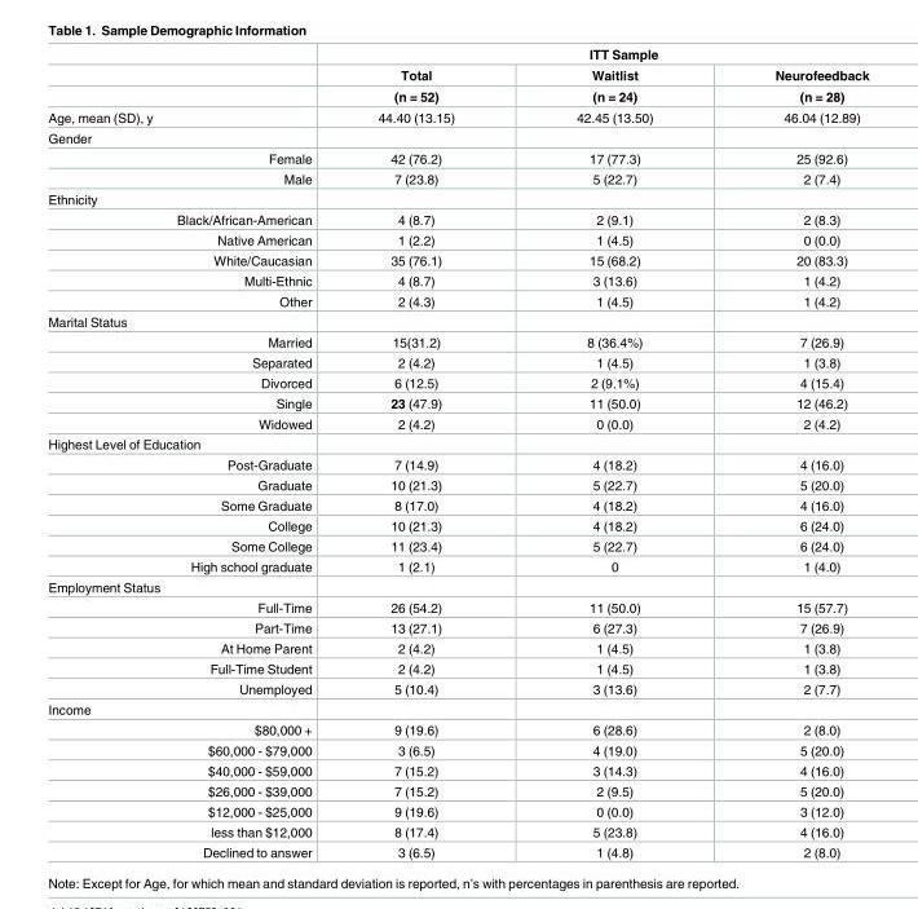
<table><thead><tr><td rowspan="3"></td><td colspan="3">ITT Sample</td></tr><tr><td rowspan="2">Total (n = 52)</td><td rowspan="2">Waitlist (n = 24)</td><td rowspan="2">Neurofeedback (n = 28)</td></tr><tr></tr></thead><tbody><tr><td>Age, mean (SD), y</td><td>44.40 (13.15)</td><td>42.45 (13.50)</td><td>46.04 (12.89)</td></tr><tr><td colspan="4">Gender</td></tr><tr><td>Female</td><td>42 (76.2)</td><td>17 (77.3)</td><td>25 (92.6)</td></tr><tr><td>Male</td><td>7 (23.8)</td><td>5 (22.7)</td><td>2 (7.4)</td></tr><tr><td colspan="4">Ethnicity</td></tr><tr><td>Black/African-American</td><td>4 (8.7)</td><td>2 (9.1)</td><td>2 (8.3)</td></tr><tr><td>Native American</td><td>1 (2.2)</td><td>1 (4.5)</td><td>0 (0.0)</td></tr><tr><td>White/Caucasian</td><td>35 (76.1)</td><td>15 (68.2)</td><td>20 (83.3)</td></tr><tr><td>Multi-Ethnic</td><td>4 (8.7)</td><td>3 (13.6)</td><td>1 (4.2)</td></tr><tr><td>Other</td><td>2 (4.3)</td><td>1 (4.5)</td><td>1 (4.2)</td></tr><tr><td colspan="4">Marital Status</td></tr><tr><td>Married</td><td>15(31.2)</td><td>8 (36.4%)</td><td>7 (26.9)</td></tr><tr><td>Separated</td><td>2 (4.2)</td><td>1 (4.5)</td><td>1 (3.8)</td></tr><tr><td>Divorced</td><td>6 (12.5)</td><td>2 (9.1%)</td><td>4 (15.4)</td></tr><tr><td>Single</td><td>23 (47.9)</td><td>11 (50.0)</td><td>12 (46.2)</td></tr><tr><td>Widowed</td><td>2 (4.2)</td><td>0 (0.0)</td><td>2 (4.2)</td></tr><tr><td colspan="4">Highest Level of Education</td></tr><tr><td>Post-Graduate</td><td>7 (14.9)</td><td>4 (18.2)</td><td>4 (16.0)</td></tr><tr><td>Graduate</td><td>10 (21.3)</td><td>5 (22.7)</td><td>5 (20.0)</td></tr><tr><td>Some Graduate</td><td>8 (17.0)</td><td>4 (18.2)</td><td>4 (16.0)</td></tr><tr><td>College</td><td>10 (21.3)</td><td>4 (18.2)</td><td>6 (24.0)</td></tr><tr><td>Some College</td><td>11 (23.4)</td><td>5 (22.7)</td><td>6 (24.0)</td></tr><tr><td>High school graduate</td><td>1 (2.1)</td><td>0</td><td>1 (4.0)</td></tr><tr><td colspan="4">Employment Status</td></tr><tr><td>Full-Time</td><td>26 (54.2)</td><td>11 (50.0)</td><td>15 (57.7)</td></tr><tr><td>Part-Time</td><td>13 (27.1)</td><td>6 (27.3)</td><td>7 (26.9)</td></tr><tr><td>At Home Parent</td><td>2 (4.2)</td><td>1 (4.5)</td><td>1 (3.8)</td></tr><tr><td>Full-Time Student</td><td>2 (4.2)</td><td>1 (4.5)</td><td>1 (3.8)</td></tr><tr><td>Unemployed</td><td>5 (10.4)</td><td>3 (13.6)</td><td>2 (7.7)</td></tr><tr><td colspan="4">Income</td></tr><tr><td>$80,000 +</td><td>9 (19.6)</td><td>6 (28.6)</td><td>2 (8.0)</td></tr><tr><td>$60,000 - $79,000</td><td>3 (6.5)</td><td>4 (19.0)</td><td>5 (20.0)</td></tr><tr><td>$40,000 - $59,000</td><td>7 (15.2)</td><td>3 (14.3)</td><td>4 (16.0)</td></tr><tr><td>$26,000 - $39,000</td><td>7 (15.2)</td><td>2 (9.5)</td><td>5 (20.0)</td></tr><tr><td>$12,000 - $25,000</td><td>9 (19.6)</td><td>0 (0.0)</td><td>3 (12.0)</td></tr><tr><td>less than $12,000</td><td>8 (17.4)</td><td>5 (23.8)</td><td>4 (16.0)</td></tr><tr><td>Declined to answer</td><td>3 (6.5)</td><td>1 (4.8)</td><td>2 (8.0)</td></tr></tbody></table>